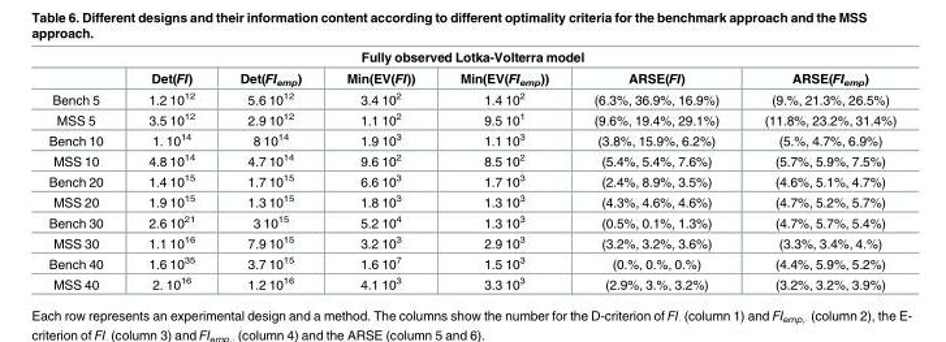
<table><thead><tr><td colspan="7">Fully observed Lotka-Volterra model</td></tr><tr><td></td><td>Det(FI)</td><td>Det(FI<sub>emp</sub>)</td><td>Min(EV(FI))</td><td>Min(EV(FI<sub>emp</sub>))</td><td>ARSE(FI)</td><td>ARSE(FI<sub>emp</sub>)</td></tr></thead><tbody><tr><td>Bench 5</td><td>1.2 10<sup>12</sup></td><td>5.6 10<sup>12</sup></td><td>3.4 10<sup>2</sup></td><td>1.4 10<sup>2</sup></td><td>(6.3%, 36.9%, 16.9%)</td><td>(9.%, 21.3%, 26.5%)</td></tr><tr><td>MSS 5</td><td>3.5 10<sup>12</sup></td><td>2.9 10<sup>12</sup></td><td>1.1 10<sup>2</sup></td><td>9.5 10<sup>1</sup></td><td>(9.6%, 19.4%, 29.1%)</td><td>(11.8%, 23.2%, 31.4%)</td></tr><tr><td>Bench 10</td><td>1. 10<sup>14</sup></td><td>8 10<sup>14</sup></td><td>1.9 10<sup>3</sup></td><td>1.1 10<sup>3</sup></td><td>(3.8%, 15.9%, 6.2%)</td><td>(5.%, 4.7%, 6.9%)</td></tr><tr><td>MSS 10</td><td>4.8 10<sup>14</sup></td><td>4.7 10<sup>14</sup></td><td>9.6 10<sup>2</sup></td><td>8.5 10<sup>2</sup></td><td>(5.4%, 5.4%, 7.6%)</td><td>(5.7%, 5.9%, 7.5%)</td></tr><tr><td>Bench 20</td><td>1.4 10<sup>15</sup></td><td>1.7 10<sup>15</sup></td><td>6.6 10<sup>3</sup></td><td>1.7 10<sup>3</sup></td><td>(2.4%, 8.9%, 3.5%)</td><td>(4.6%, 5.1%, 4.7%)</td></tr><tr><td>MSS 20</td><td>1.9 10<sup>15</sup></td><td>1.3 10<sup>15</sup></td><td>1.8 10<sup>3</sup></td><td>1.3 10<sup>3</sup></td><td>(4.3%, 4.6%, 4.6%)</td><td>(4.7%, 5.2%, 5.7%)</td></tr><tr><td>Bench 30</td><td>2.6 10<sup>21</sup></td><td>3 10<sup>15</sup></td><td>5.2 10<sup>4</sup></td><td>1.3 10<sup>3</sup></td><td>(0.5%, 0.1%, 1.3%)</td><td>(4.7%, 5.7%, 5.4%)</td></tr><tr><td>MSS 30</td><td>1.1 10<sup>16</sup></td><td>7.9 10<sup>15</sup></td><td>3.2 10<sup>3</sup></td><td>2.9 10<sup>3</sup></td><td>(3.2%, 3.2%, 3.6%)</td><td>(3.3%, 3.4%, 4.%)</td></tr><tr><td>Bench 40</td><td>1.6 10<sup>35</sup></td><td>3.7 10<sup>15</sup></td><td>1.6 10<sup>7</sup></td><td>1.5 10<sup>3</sup></td><td>(0.%, 0.%, 0.%)</td><td>(4.4%, 5.9%, 5.2%)</td></tr><tr><td>MSS 40</td><td>2. 10<sup>16</sup></td><td>1.2 10<sup>16</sup></td><td>4.1 10<sup>3</sup></td><td>3.3 10<sup>3</sup></td><td>(2.9%, 3.%, 3.2%)</td><td>(3.2%, 3.2%, 3.9%)</td></tr></tbody></table>